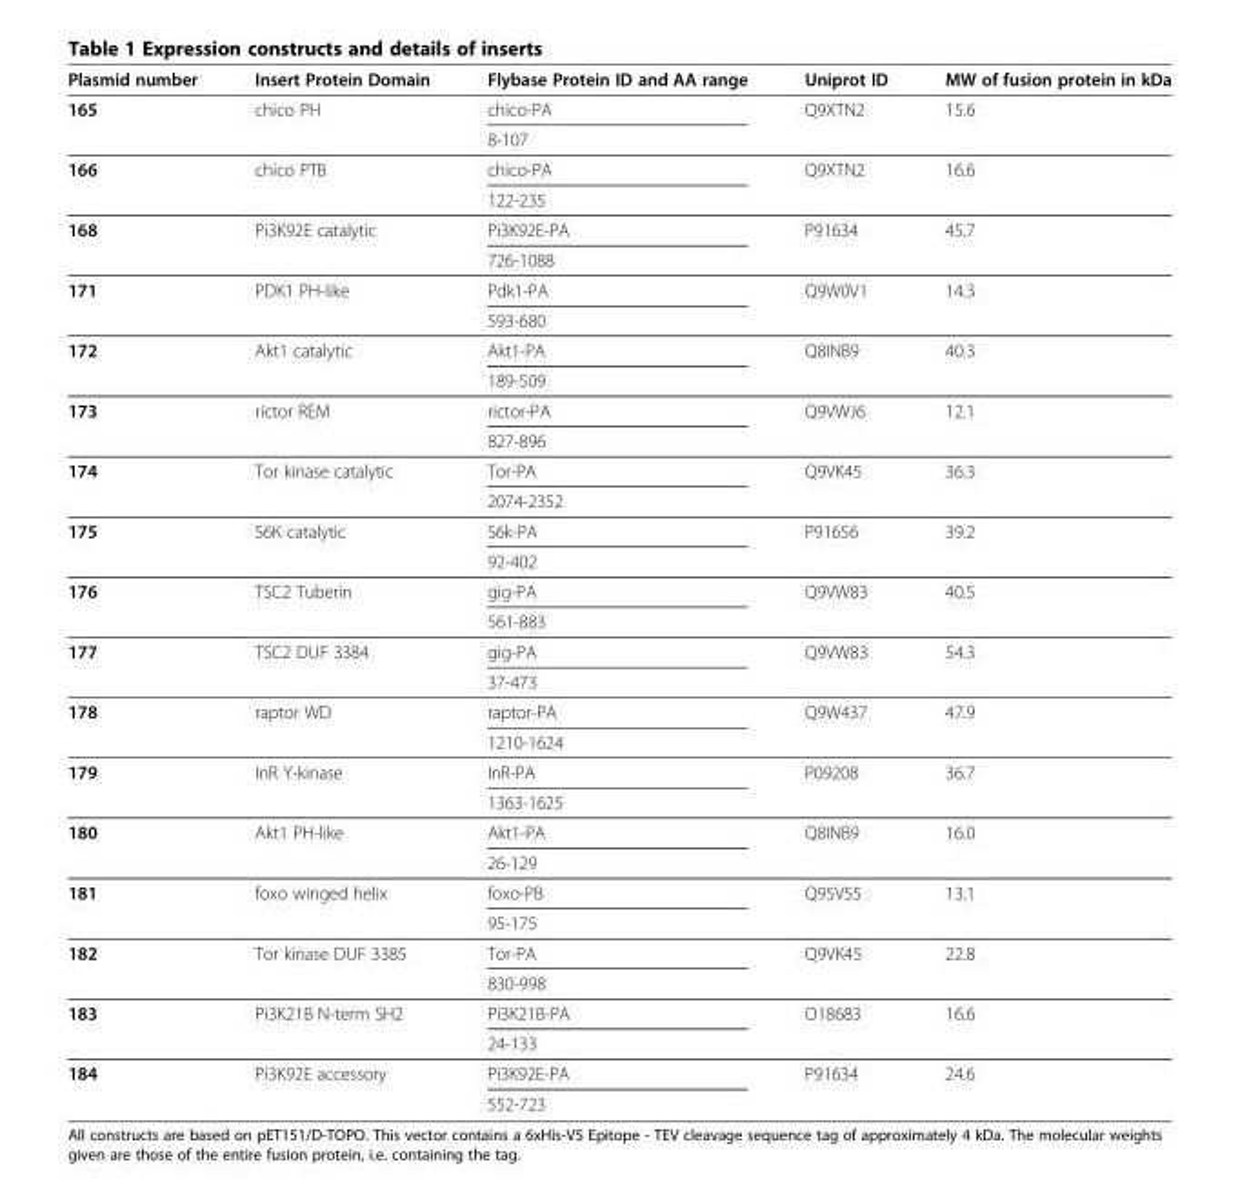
<table><thead><tr><td>Plasmid number</td><td>Insert Protein Domain</td><td>Flybase Protein ID and AA range</td><td>Uniprot ID</td><td>MW of fusion protein in kDa</td></tr></thead><tbody><tr><td rowspan="2">165</td><td rowspan="2">chico PH</td><td>chico-PA</td><td rowspan="2">Q9XTN2</td><td rowspan="2">15.6</td></tr><tr><td>8-107</td></tr><tr><td rowspan="2">166</td><td rowspan="2">chico PTB</td><td>chico-PA</td><td rowspan="2">Q9XTN2</td><td rowspan="2">16.6</td></tr><tr><td>122-235</td></tr><tr><td rowspan="2">168</td><td rowspan="2">Pi3K92E catalytic</td><td>Pi3K92E-PA</td><td>P91634</td><td rowspan="2">45.7</td></tr><tr><td>726-1088</td><td></td></tr><tr><td rowspan="2">171</td><td rowspan="2">PDK1 PH-like</td><td>Pdk1-PA</td><td>Q9W0V1</td><td rowspan="2">14.3</td></tr><tr><td>593-680</td><td></td></tr><tr><td rowspan="2">172</td><td rowspan="2">Akt1 catalytic</td><td>Akt1-PA</td><td>Q8INB9</td><td rowspan="2">40.3</td></tr><tr><td>189-509</td><td></td></tr><tr><td rowspan="2">173</td><td rowspan="2">rictor REM</td><td>rictor-PA</td><td>Q9VWJ6</td><td rowspan="2">12.1</td></tr><tr><td>827-896</td><td></td></tr><tr><td rowspan="2">174</td><td rowspan="2">Tor kinase catalytic</td><td>Tor-PA</td><td>Q9VK45</td><td rowspan="2">36.3</td></tr><tr><td>2074-2352</td><td></td></tr><tr><td rowspan="2">175</td><td rowspan="2">S6K catalytic</td><td>S6k-PA</td><td>P91656</td><td rowspan="2">39.2</td></tr><tr><td>92-402</td><td></td></tr><tr><td rowspan="2">176</td><td rowspan="2">TSC2 Tuberin</td><td>gig-PA</td><td>Q9VW83</td><td rowspan="2">40.5</td></tr><tr><td>561-883</td><td></td></tr><tr><td rowspan="2">177</td><td rowspan="2">TSC2 DUF 3384</td><td>gig-PA</td><td>Q9VW83</td><td rowspan="2">54.3</td></tr><tr><td>37-473</td><td></td></tr><tr><td rowspan="2">178</td><td rowspan="2">raptor WD</td><td>raptor-PA</td><td>Q9W437</td><td rowspan="2">47.9</td></tr><tr><td>1210-1624</td><td></td></tr><tr><td rowspan="2">179</td><td rowspan="2">InR Y-kinase</td><td>InR-PA</td><td>P09208</td><td rowspan="2">36.7</td></tr><tr><td>1363-1625</td><td></td></tr><tr><td rowspan="2">180</td><td rowspan="2">Akt1 PH-like</td><td>Akt1-PA</td><td>Q8INB9</td><td rowspan="2">16.0</td></tr><tr><td>26-129</td><td></td></tr><tr><td rowspan="2">181</td><td rowspan="2">foxo winged helix</td><td>foxo-PB</td><td>Q95V55</td><td rowspan="2">13.1</td></tr><tr><td>95-175</td><td></td></tr><tr><td rowspan="2">182</td><td rowspan="2">Tor kinase DUF 3385</td><td>Tor-PA</td><td>Q9VK45</td><td rowspan="2">22.8</td></tr><tr><td>830-998</td><td></td></tr><tr><td rowspan="2">183</td><td rowspan="2">Pi3K21B N-term SH2</td><td>Pi3K21B-PA</td><td>O18683</td><td rowspan="2">16.6</td></tr><tr><td>24-133</td><td></td></tr><tr><td rowspan="2">184</td><td rowspan="2">Pi3K92E accessory</td><td>Pi3K92E-PA</td><td rowspan="2">P91634</td><td rowspan="2">24.6</td></tr><tr><td>552-723</td></tr></tbody></table>